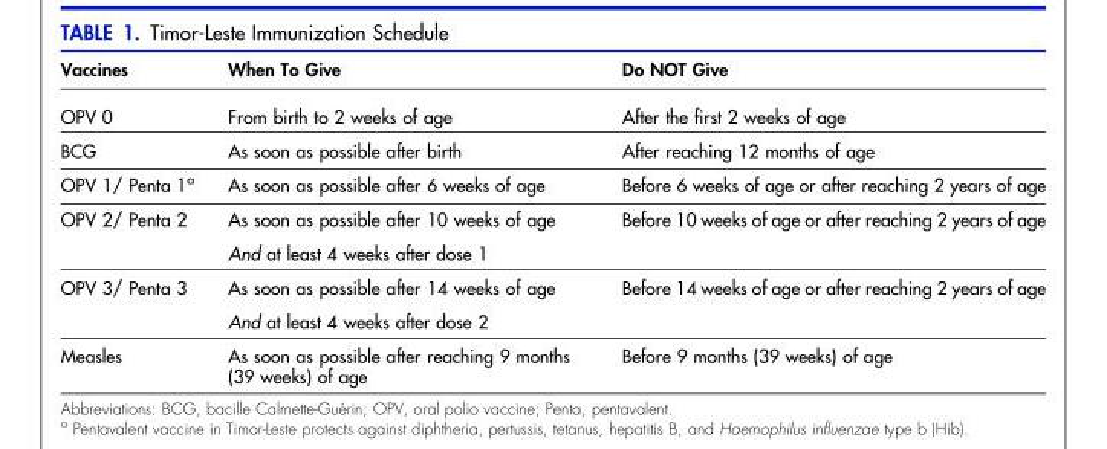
<table><thead><tr><td>Vaccines</td><td>When To Give</td><td>Do NOT Give</td></tr></thead><tbody><tr><td>OPV 0</td><td>From birth to 2 weeks of age</td><td>After the first 2 weeks of age</td></tr><tr><td>BCG</td><td>As soon as possible after birth</td><td>After reaching 12 months of age</td></tr><tr><td>OPV 1/ Penta 1<sup>a</sup></td><td>As soon as possible after 6 weeks of age</td><td>Before 6 weeks of age or after reaching 2 years of age</td></tr><tr><td>OPV 2/ Penta 2</td><td>As soon as possible after 10 weeks of age And at least 4 weeks after dose 1</td><td>Before 10 weeks of age or after reaching 2 years of age</td></tr><tr><td>OPV 3/ Penta 3</td><td>As soon as possible after 14 weeks of age And at least 4 weeks after dose 2</td><td>Before 14 weeks of age or after reaching 2 years of age</td></tr><tr><td>Measles</td><td>As soon as possible after reaching 9 months (39 weeks) of age</td><td>Before 9 months (39 weeks) of age</td></tr></tbody></table>